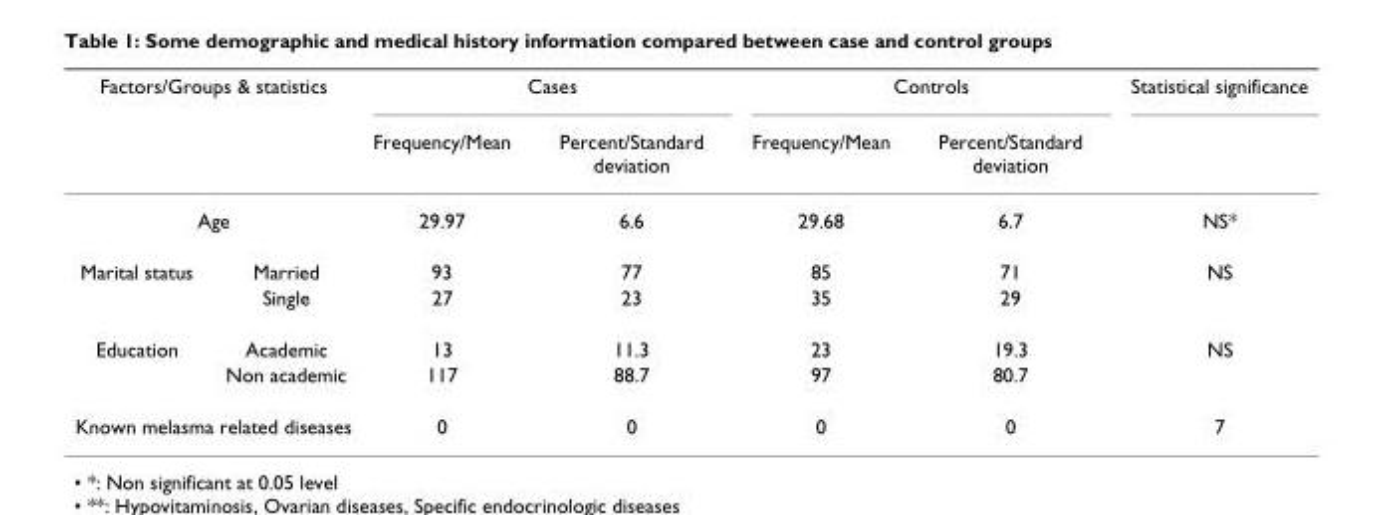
<table><thead><tr><td colspan="2">Factors/Groups &amp; statistics</td><td colspan="2">Cases</td><td colspan="2">Controls</td><td rowspan="2">Statistical significance</td></tr><tr><td></td><td></td><td>Frequency/Mean</td><td>Percent/Standard deviation</td><td>Frequency/Mean</td><td>Percent/Standard deviation</td></tr></thead><tbody><tr><td colspan="2">Age</td><td>29.97</td><td>6.6</td><td>29.68</td><td>6.7</td><td>NS*</td></tr><tr><td rowspan="2">Marital status</td><td>Married</td><td>93</td><td>77</td><td>85</td><td>71</td><td>NS</td></tr><tr><td>Single</td><td>27</td><td>23</td><td>35</td><td>29</td><td></td></tr><tr><td rowspan="2">Education</td><td>Academic</td><td>13</td><td>11.3</td><td>23</td><td>19.3</td><td>NS</td></tr><tr><td>Non academic</td><td>117</td><td>88.7</td><td>97</td><td>80.7</td><td></td></tr><tr><td colspan="2">Known melasma related diseases</td><td>0</td><td>0</td><td>0</td><td>0</td><td>7</td></tr></tbody></table>